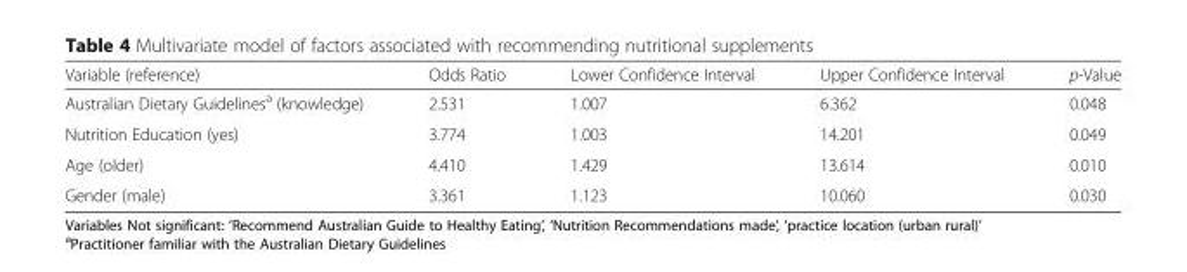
<table><thead><tr><td>Variable (reference)</td><td>Odds Ratio</td><td>Lower Confidence Interval</td><td>Upper Confidence Interval</td><td>p-Value</td></tr></thead><tbody><tr><td>Australian Dietary Guidelines<sup>a</sup> (knowledge)</td><td>2.531</td><td>1.007</td><td>6.362</td><td>0.048</td></tr><tr><td>Nutrition Education (yes)</td><td>3.774</td><td>1.003</td><td>14.201</td><td>0.049</td></tr><tr><td>Age (older)</td><td>4.410</td><td>1.429</td><td>13.614</td><td>0.010</td></tr><tr><td>Gender (male)</td><td>3.361</td><td>1.123</td><td>10.060</td><td>0.030</td></tr></tbody></table>